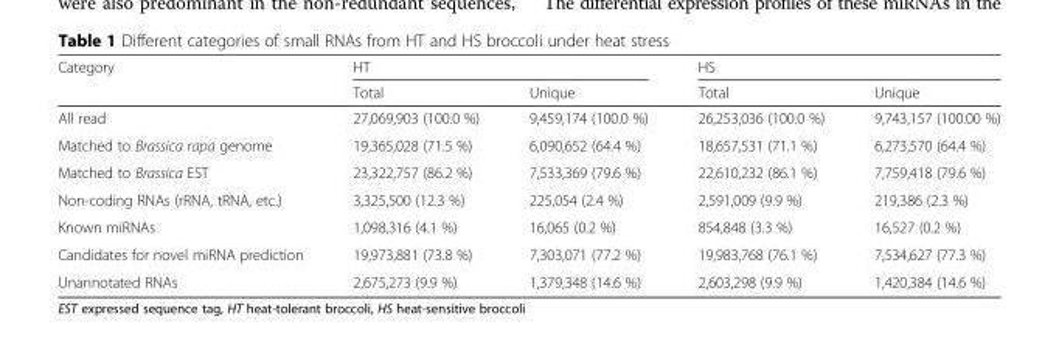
<table><thead><tr><td rowspan="2">Category</td><td colspan="2">HT</td><td colspan="2">HS</td></tr><tr><td>Total</td><td>Unique</td><td>Total</td><td>Unique</td></tr></thead><tbody><tr><td>All read</td><td>27,069,903 (100.0 %)</td><td>9,459,174 (100.0 %)</td><td>26,253,036 (100.0 %)</td><td>9,743,157 (100.00 %)</td></tr><tr><td>Matched to Brassica rapa genome</td><td>19,365,028 (71.5 %)</td><td>6,090,652 (64.4 %)</td><td>18,657,531 (71.1 %)</td><td>6,273,570 (64.4 %)</td></tr><tr><td>Matched to Brassica EST</td><td>23,322,757 (86.2 %)</td><td>7,533,369 (79.6 %)</td><td>22,610,232 (86.1 %)</td><td>7,759,418 (79.6 %)</td></tr><tr><td>Non-coding RNAs (rRNA, tRNA, etc.)</td><td>3,325,500 (12.3 %)</td><td>225,054 (2.4 %)</td><td>2,591,009 (9.9 %)</td><td>219,386 (2.3 %)</td></tr><tr><td>Known miRNAs</td><td>1,098,316 (4.1 %)</td><td>16,065 (0.2 %)</td><td>854,848 (3.3 %)</td><td>16,527 (0.2 %)</td></tr><tr><td>Candidates for novel miRNA prediction</td><td>19,973,881 (73.8 %)</td><td>7,303,071 (77.2 %)</td><td>19,983,768 (76.1 %)</td><td>7,534,627 (77.3 %)</td></tr><tr><td>Unannotated RNAs</td><td>2,675,273 (9.9 %)</td><td>1,379,348 (14.6 %)</td><td>2,603,298 (9.9 %)</td><td>1,420,384 (14.6 %)</td></tr></tbody></table>